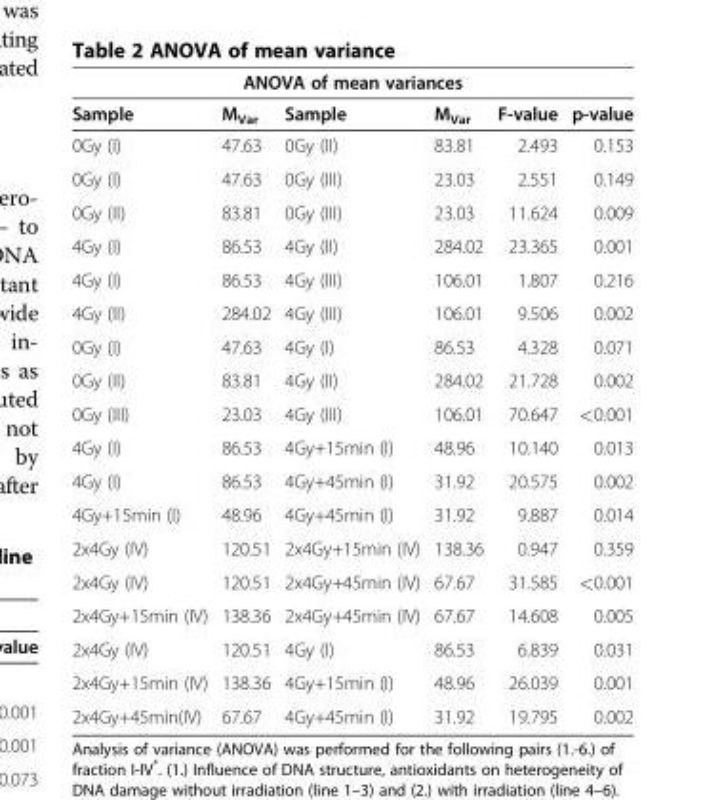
<table><thead><tr><td colspan="6">ANOVA of mean variances</td></tr><tr><td>Sample</td><td>M<sub>Var</sub></td><td>Sample</td><td>M<sub>Var</sub></td><td>F-value</td><td>p-value</td></tr></thead><tbody><tr><td>0Gy (I)</td><td>47.63</td><td>0Gy (II)</td><td>83.81</td><td>2.493</td><td>0.153</td></tr><tr><td>0Gy (I)</td><td>47.63</td><td>0Gy (III)</td><td>23.03</td><td>2.551</td><td>0.149</td></tr><tr><td>0Gy (II)</td><td>83.81</td><td>0Gy (III)</td><td>23.03</td><td>11.624</td><td>0.009</td></tr><tr><td>4Gy (I)</td><td>86.53</td><td>4Gy (II)</td><td>284.02</td><td>23.365</td><td>0.001</td></tr><tr><td>4Gy (I)</td><td>86.53</td><td>4Gy (III)</td><td>106.01</td><td>1.807</td><td>0.216</td></tr><tr><td>4Gy (II)</td><td>284.02</td><td>4Gy (III)</td><td>106.01</td><td>9.506</td><td>0.002</td></tr><tr><td>0Gy (I)</td><td>47.63</td><td>4Gy (I)</td><td>86.53</td><td>4.328</td><td>0.071</td></tr><tr><td>0Gy (II)</td><td>83.81</td><td>4Gy (II)</td><td>284.02</td><td>21.728</td><td>0.002</td></tr><tr><td>0Gy (III)</td><td>23.03</td><td>4Gy (III)</td><td>106.01</td><td>70.647</td><td>&lt;0.001</td></tr><tr><td>4Gy (I)</td><td>86.53</td><td>4Gy+15min (I)</td><td>48.96</td><td>10.140</td><td>0.013</td></tr><tr><td>4Gy (I)</td><td>86.53</td><td>4Gy+45min (I)</td><td>31.92</td><td>20.575</td><td>0.002</td></tr><tr><td>4Gy+15min (I)</td><td>48.96</td><td>4Gy+45min (I)</td><td>31.92</td><td>9.887</td><td>0.014</td></tr><tr><td>2x4Gy (IV)</td><td>120.51</td><td>2x4Gy+15min (IV)</td><td>138.36</td><td>0.947</td><td>0.359</td></tr><tr><td>2x4Gy (IV)</td><td>120.51</td><td>2x4Gy+45min (IV)</td><td>67.67</td><td>31.585</td><td>&lt;0.001</td></tr><tr><td>2x4Gy+15min (IV)</td><td>138.36</td><td>2x4Gy+45min (IV)</td><td>67.67</td><td>14.608</td><td>0.005</td></tr><tr><td>2x4Gy (IV)</td><td>120.51</td><td>4Gy (I)</td><td>86.53</td><td>6.839</td><td>0.031</td></tr><tr><td>2x4Gy+15min (IV)</td><td>138.36</td><td>4Gy+15min (I)</td><td>48.96</td><td>26.039</td><td>0.001</td></tr><tr><td>2x4Gy+45min(IV)</td><td>67.67</td><td>4Gy+45min (I)</td><td>31.92</td><td>19.795</td><td>0.002</td></tr></tbody></table>